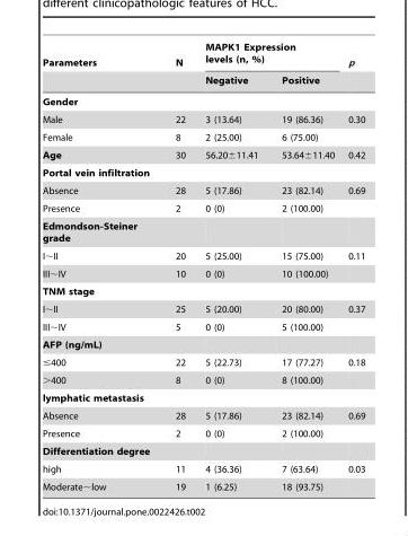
<table><thead><tr><td rowspan="2">Parameters</td><td rowspan="2">N</td><td colspan="2">MAPK1 Expression levels (n, %)</td><td rowspan="2">p</td></tr><tr><td>Negative</td><td>Positive</td></tr></thead><tbody><tr><td colspan="5">Gender</td></tr><tr><td>Male</td><td>22</td><td>3 (13.64)</td><td>19 (86.36)</td><td>0.30</td></tr><tr><td>Female</td><td>8</td><td>2 (25.00)</td><td>6 (75.00)</td><td></td></tr><tr><td>Age</td><td>30</td><td>56.20±11.41</td><td>53.64±11.40</td><td>0.42</td></tr><tr><td colspan="5">Portal vein infiltration</td></tr><tr><td>Absence</td><td>28</td><td>5 (17.86)</td><td>23 (82.14)</td><td>0.69</td></tr><tr><td>Presence</td><td>2</td><td>0 (0)</td><td>2 (100.00)</td><td></td></tr><tr><td colspan="5">Edmondson-Steiner grade</td></tr><tr><td>I∼II</td><td>20</td><td>5 (25.00)</td><td>15 (75.00)</td><td>0.11</td></tr><tr><td>III∼IV</td><td>10</td><td>0 (0)</td><td>10 (100.00)</td><td></td></tr><tr><td colspan="5">TNM stage</td></tr><tr><td>I∼II</td><td>25</td><td>5 (20.00)</td><td>20 (80.00)</td><td>0.37</td></tr><tr><td>III∼IV</td><td>5</td><td>0 (0)</td><td>5 (100.00)</td><td></td></tr><tr><td colspan="5">AFP (ng/mL)</td></tr><tr><td>≤400</td><td>22</td><td>5 (22.73)</td><td>17 (77.27)</td><td>0.18</td></tr><tr><td>&gt;400</td><td>8</td><td>0 (0)</td><td>8 (100.00)</td><td></td></tr><tr><td colspan="5">lymphatic metastasis</td></tr><tr><td>Absence</td><td>28</td><td>5 (17.86)</td><td>23 (82.14)</td><td>0.69</td></tr><tr><td>Presence</td><td>2</td><td>0 (0)</td><td>2 (100.00)</td><td></td></tr><tr><td colspan="5">Differentiation degree</td></tr><tr><td>high</td><td>11</td><td>4 (36.36)</td><td>7 (63.64)</td><td>0.03</td></tr><tr><td>Moderate∼low</td><td>19</td><td>1 (6.25)</td><td>18 (93.75)</td><td></td></tr></tbody></table>